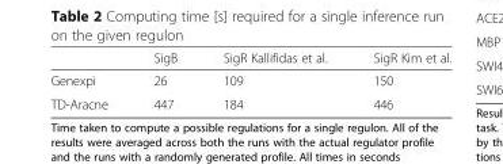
<table><thead><tr><td></td><td>SigB</td><td>SigR Kallifidas et al.</td><td>SigR Kim et al.</td></tr></thead><tbody><tr><td>Genexpi</td><td>26</td><td>109</td><td>150</td></tr><tr><td>TD-Aracne</td><td>447</td><td>184</td><td>446</td></tr></tbody></table>